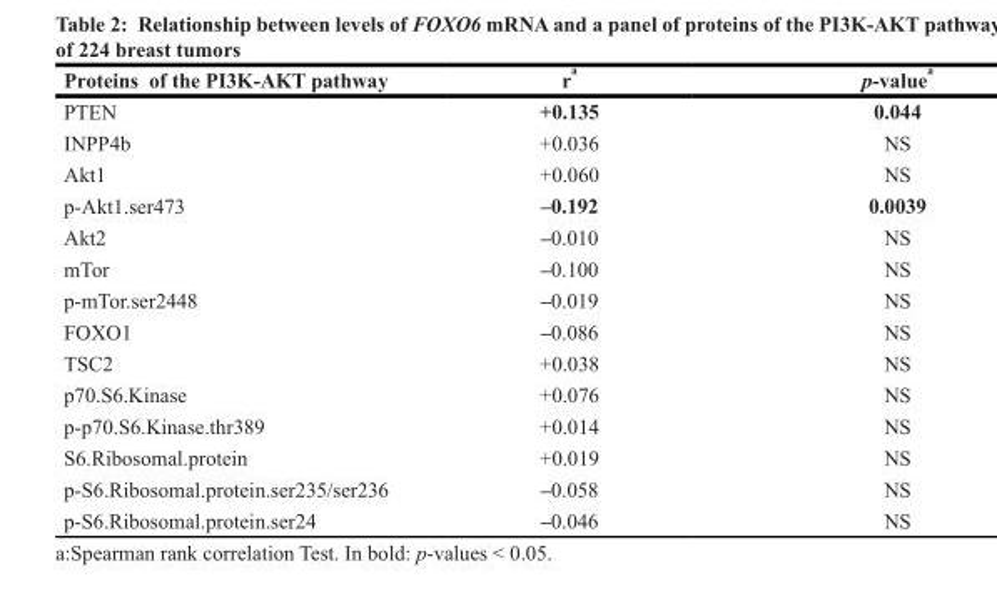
<table><thead><tr><td>Proteins of the PI3K-AKT pathway</td><td>r <sup>a</sup></td><td>p-value <sup>a</sup></td></tr></thead><tbody><tr><td>PTEN</td><td>+0.135</td><td>0.044</td></tr><tr><td>INPP4b</td><td>+0.036</td><td>NS</td></tr><tr><td>Akt1</td><td>+0.060</td><td>NS</td></tr><tr><td>p-Akt1.ser473</td><td>–0.192</td><td>0.0039</td></tr><tr><td>Akt2</td><td>–0.010</td><td>NS</td></tr><tr><td>mTor</td><td>–0.100</td><td>NS</td></tr><tr><td>p-mTor.ser2448</td><td>–0.019</td><td>NS</td></tr><tr><td>FOXO1</td><td>–0.086</td><td>NS</td></tr><tr><td>TSC2</td><td>+0.038</td><td>NS</td></tr><tr><td>p70.S6.Kinase</td><td>+0.076</td><td>NS</td></tr><tr><td>p-p70.S6.Kinase.thr389</td><td>+0.014</td><td>NS</td></tr><tr><td>S6.Ribosomal.protein</td><td>+0.019</td><td>NS</td></tr><tr><td>p-S6.Ribosomal.protein.ser235/ser236</td><td>–0.058</td><td>NS</td></tr><tr><td>p-S6.Ribosomal.protein.ser24</td><td>–0.046</td><td>NS</td></tr></tbody></table>